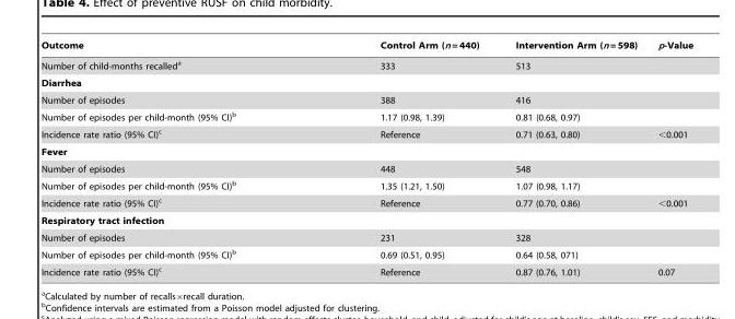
<table><thead><tr><td>Outcome</td><td>Control Arm (n = 440)</td><td>Intervention Arm (n = 598)</td><td>p-Value</td></tr></thead><tbody><tr><td>Number of child-months recalled<sup>a</sup></td><td>333</td><td>513</td><td></td></tr><tr><td colspan="4">Diarrhea</td></tr><tr><td>Number of episodes</td><td>388</td><td>416</td><td></td></tr><tr><td>Number of episodes per child-month (95% CI)<sup>b</sup></td><td>1.17 (0.98, 1.39)</td><td>0.81 (0.68, 0.97)</td><td></td></tr><tr><td>Incidence rate ratio (95% CI)<sup>c</sup></td><td>Reference</td><td>0.71 (0.63, 0.80)</td><td>&lt;0.001</td></tr><tr><td colspan="4">Fever</td></tr><tr><td>Number of episodes</td><td>448</td><td>548</td><td></td></tr><tr><td>Number of episodes per child-month (95% CI)<sup>b</sup></td><td>1.35 (1.21, 1.50)</td><td>1.07 (0.98, 1.17)</td><td></td></tr><tr><td>Incidence rate ratio (95% CI)<sup>c</sup></td><td>Reference</td><td>0.77 (0.70, 0.86)</td><td>&lt;0.001</td></tr><tr><td colspan="4">Respiratory tract infection</td></tr><tr><td>Number of episodes</td><td>231</td><td>328</td><td></td></tr><tr><td>Number of episodes per child-month (95% CI)<sup>b</sup></td><td>0.69 (0.51, 0.95)</td><td>0.64 (0.58, 071)</td><td></td></tr><tr><td>Incidence rate ratio (95% CI)<sup>c</sup></td><td>Reference</td><td>0.87 (0.76, 1.01)</td><td>0.07</td></tr></tbody></table>